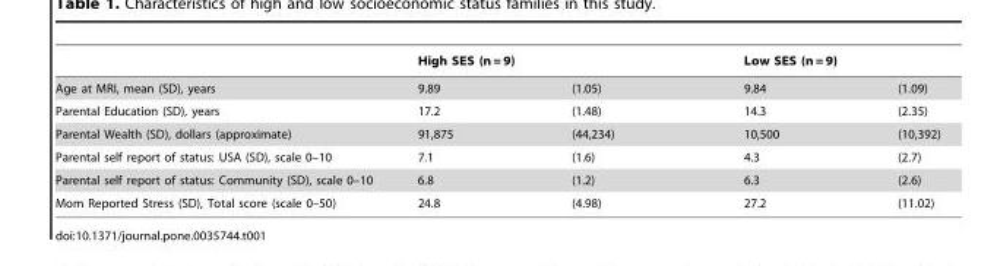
<table><thead><tr><td rowspan="2">Age at MRI, mean (SD), years</td><td colspan="2">High SES (n = 9)</td><td colspan="2">Low SES (n = 9)</td></tr><tr><td>9.89</td><td>(1.05)</td><td>9.84</td><td>(1.09)</td></tr></thead><tbody><tr><td>Parental Education (SD), years</td><td>17.2</td><td>(1.48)</td><td>14.3</td><td>(2.35)</td></tr><tr><td>Parental Wealth (SD), dollars (approximate)</td><td>91,875</td><td>(44,234)</td><td>10,500</td><td>(10,392)</td></tr><tr><td>Parental self report of status: USA (SD), scale 0–10</td><td>7.1</td><td>(1.6)</td><td>4.3</td><td>(2.7)</td></tr><tr><td>Parental self report of status: Community (SD), scale 0–10</td><td>6.8</td><td>(1.2)</td><td>6.3</td><td>(2.6)</td></tr><tr><td>Mom Reported Stress (SD), Total score (scale 0–50)</td><td>24.8</td><td>(4.98)</td><td>27.2</td><td>(11.02)</td></tr></tbody></table>